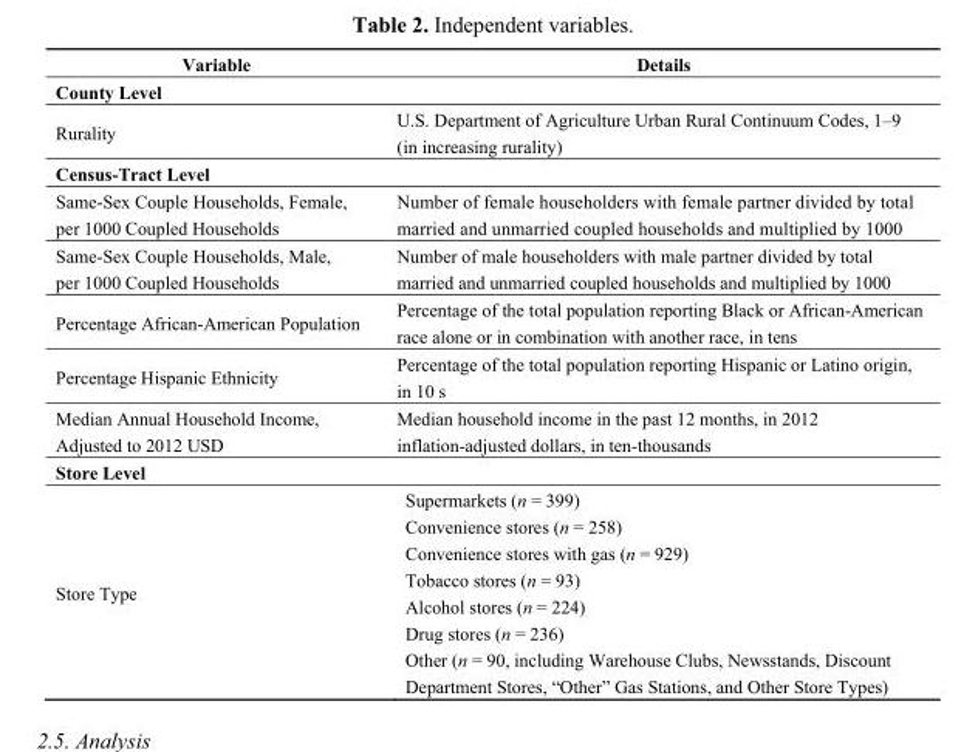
<table><thead><tr><td>Variable</td><td>Details</td></tr></thead><tbody><tr><td colspan="2">County Level</td></tr><tr><td>Rurality</td><td>U.S. Department of Agriculture Urban Rural Continuum Codes, 1–9 (in increasing rurality)</td></tr><tr><td colspan="2">Census-Tract Level</td></tr><tr><td>Same-Sex Couple Households, Female, per 1000 Coupled Households</td><td>Number of female householders with female partner divided by total married and unmarried coupled households and multiplied by 1000</td></tr><tr><td>Same-Sex Couple Households, Male, per 1000 Coupled Households</td><td>Number of male householders with male partner divided by total married and unmarried coupled households and multiplied by 1000</td></tr><tr><td>Percentage African-American Population</td><td>Percentage of the total population reporting Black or African-American race alone or in combination with another race, in tens</td></tr><tr><td>Percentage Hispanic Ethnicity</td><td>Percentage of the total population reporting Hispanic or Latino origin, in 10 s</td></tr><tr><td>Median Annual Household Income, Adjusted to 2012 USD</td><td>Median household income in the past 12 months, in 2012 inflation-adjusted dollars, in ten-thousands</td></tr><tr><td colspan="2">Store Level</td></tr><tr><td>Store Type</td><td>Supermarkets (n = 399) Convenience stores (n = 258) Convenience stores with gas (n = 929) Tobacco stores (n = 93) Alcohol stores (n = 224) Drug stores (n = 236) Other (n = 90, including Warehouse Clubs, Newsstands, Discount Department Stores, “Other” Gas Stations, and Other Store Types)</td></tr></tbody></table>